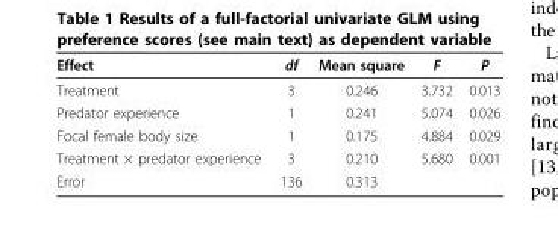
<table><thead><tr><td>Effect</td><td>df</td><td>Mean square</td><td>F</td><td>P</td></tr></thead><tbody><tr><td>Treatment</td><td>3</td><td>0.246</td><td>3.732</td><td>0.013</td></tr><tr><td>Predator experience</td><td>1</td><td>0.241</td><td>5.074</td><td>0.026</td></tr><tr><td>Focal female body size</td><td>1</td><td>0.175</td><td>4.884</td><td>0.029</td></tr><tr><td>Treatment × predator experience</td><td>3</td><td>0.210</td><td>5.680</td><td>0.001</td></tr><tr><td>Error</td><td>136</td><td>0.313</td><td></td><td></td></tr></tbody></table>